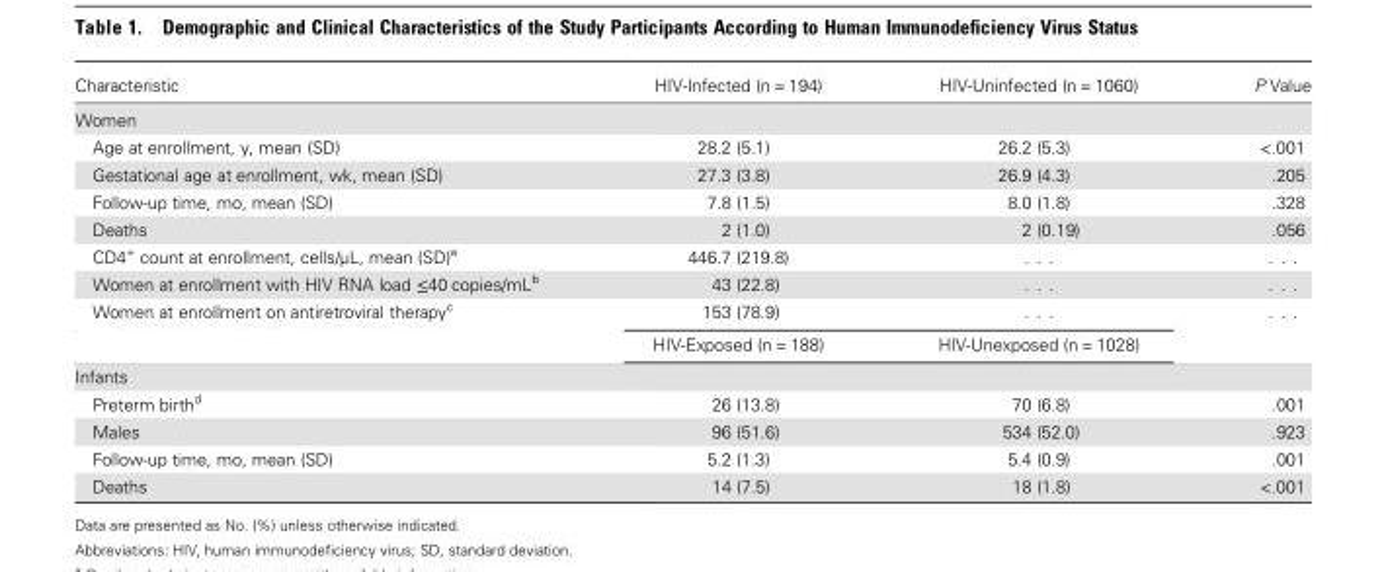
<table><thead><tr><td>Characteristic</td><td>HIV-Infected (n = 194)</td><td>HIV-Uninfected (n = 1060)</td><td>P Value</td></tr></thead><tbody><tr><td colspan="4">Women</td></tr><tr><td>Age at enrollment, y, mean (SD)</td><td>28.2 (5.1)</td><td>26.2 (5.3)</td><td>&lt;.001</td></tr><tr><td>Gestational age at enrollment, wk, mean (SD)</td><td>27.3 (3.8)</td><td>26.9 (4.3)</td><td>.205</td></tr><tr><td>Follow-up time, mo, mean (SD)</td><td>7.8 (1.5)</td><td>8.0 (1.8)</td><td>.328</td></tr><tr><td>Deaths</td><td>2 (1.0)</td><td>2 (0.19)</td><td>.056</td></tr><tr><td>CD4<sup>+</sup> count at enrollment, cells/µL, mean (SD)<sup>a</sup></td><td>446.7 (219.8)</td><td>. . .</td><td>. . .</td></tr><tr><td>Women at enrollment with HIV RNA load ≤40 copies/mL<sup>b</sup></td><td>43 (22.8)</td><td>. . .</td><td>. . .</td></tr><tr><td rowspan="2">Women at enrollment on antiretroviral therapy<sup>c</sup></td><td>153 (78.9)</td><td>. . .</td><td>. . .</td></tr><tr><td>HIV-Exposed (n = 188)</td><td>HIV-Unexposed (n = 1028)</td><td></td></tr><tr><td colspan="4">Infants</td></tr><tr><td>Preterm birth<sup>d</sup></td><td>26 (13.8)</td><td>70 (6.8)</td><td>.001</td></tr><tr><td>Males</td><td>96 (51.6)</td><td>534 (52.0)</td><td>.923</td></tr><tr><td>Follow-up time, mo, mean (SD)</td><td>5.2 (1.3)</td><td>5.4 (0.9)</td><td>.001</td></tr><tr><td>Deaths</td><td>14 (7.5)</td><td>18 (1.8)</td><td>&lt;.001</td></tr></tbody></table>